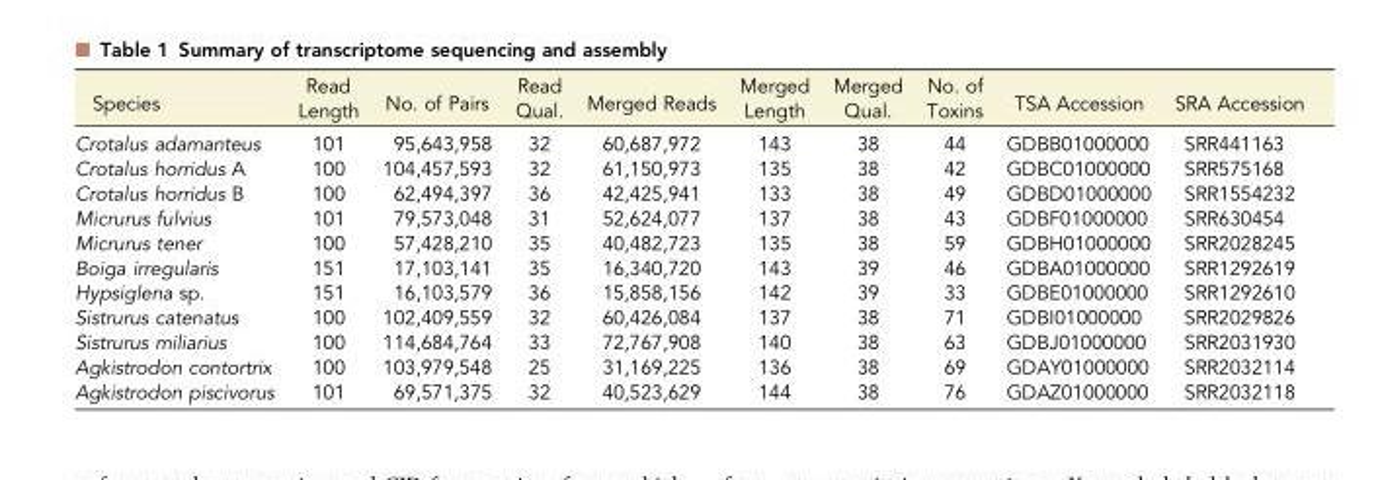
<table><thead><tr><td>Species</td><td>Read Length</td><td>No. of Pairs</td><td>Read Qual.</td><td>Merged Reads</td><td>Merged Length</td><td>Merged Qual.</td><td>No. of Toxins</td><td>TSA Accession</td><td>SRA Accession</td></tr></thead><tbody><tr><td>Crotalus adamanteus</td><td>101</td><td>95,643,958</td><td>32</td><td>60,687,972</td><td>143</td><td>38</td><td>44</td><td>GDBB01000000</td><td>SRR441163</td></tr><tr><td>Crotalus horridus A</td><td>100</td><td>104,457,593</td><td>32</td><td>61,150,973</td><td>135</td><td>38</td><td>42</td><td>GDBC01000000</td><td>SRR575168</td></tr><tr><td>Crotalus horridus B</td><td>100</td><td>62,494,397</td><td>36</td><td>42,425,941</td><td>133</td><td>38</td><td>49</td><td>GDBD01000000</td><td>SRR1554232</td></tr><tr><td>Micrurus fulvius</td><td>101</td><td>79,573,048</td><td>31</td><td>52,624,077</td><td>137</td><td>38</td><td>43</td><td>GDBF01000000</td><td>SRR630454</td></tr><tr><td>Micrurus tener</td><td>100</td><td>57,428,210</td><td>35</td><td>40,482,723</td><td>135</td><td>38</td><td>59</td><td>GDBH01000000</td><td>SRR2028245</td></tr><tr><td>Boiga irregularis</td><td>151</td><td>17,103,141</td><td>35</td><td>16,340,720</td><td>143</td><td>39</td><td>46</td><td>GDBA01000000</td><td>SRR1292619</td></tr><tr><td>Hypsiglena sp.</td><td>151</td><td>16,103,579</td><td>36</td><td>15,858,156</td><td>142</td><td>39</td><td>33</td><td>GDBE01000000</td><td>SRR1292610</td></tr><tr><td>Sistrurus catenatus</td><td>100</td><td>102,409,559</td><td>32</td><td>60,426,084</td><td>137</td><td>38</td><td>71</td><td>GDBI01000000</td><td>SRR2029826</td></tr><tr><td>Sistrurus miliarius</td><td>100</td><td>114,684,764</td><td>33</td><td>72,767,908</td><td>140</td><td>38</td><td>63</td><td>GDBJ01000000</td><td>SRR2031930</td></tr><tr><td>Agkistrodon contortrix</td><td>100</td><td>103,979,548</td><td>25</td><td>31,169,225</td><td>136</td><td>38</td><td>69</td><td>GDAY01000000</td><td>SRR2032114</td></tr><tr><td>Agkistrodon piscivorus</td><td>101</td><td>69,571,375</td><td>32</td><td>40,523,629</td><td>144</td><td>38</td><td>76</td><td>GDAZ01000000</td><td>SRR2032118</td></tr></tbody></table>